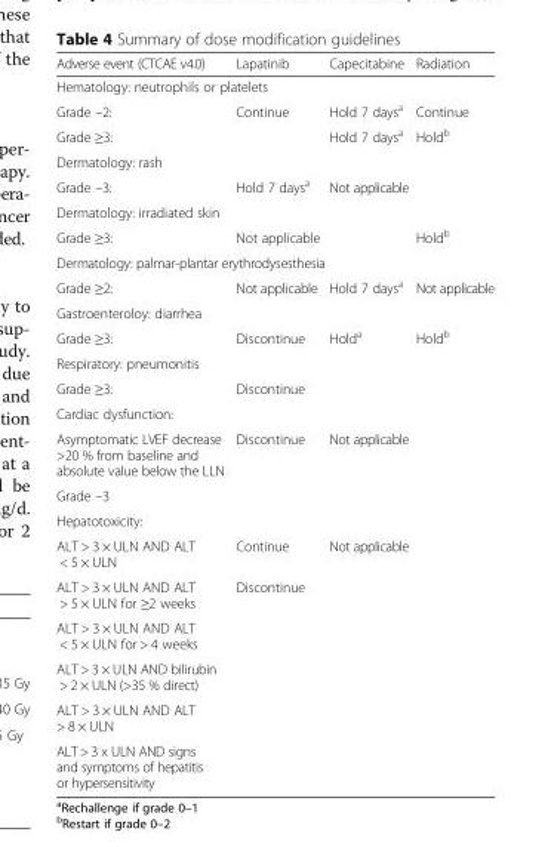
<table><thead><tr><td>Adverse event (CTCAE v4.0)</td><td>Lapatinib</td><td>Capecitabine</td><td>Radiation</td></tr></thead><tbody><tr><td colspan="4">Hematology: neutrophils or platelets</td></tr><tr><td>Grade –2:</td><td rowspan="2">Continue</td><td>Hold 7 days<sup>a</sup></td><td>Continue</td></tr><tr><td>Grade ≥3:</td><td>Hold 7 days<sup>a</sup></td><td>Hold<sup>b</sup></td></tr><tr><td colspan="4">Dermatology: rash</td></tr><tr><td>Grade –3:</td><td>Hold 7 days<sup>a</sup></td><td colspan="2">Not applicable</td></tr><tr><td colspan="4">Dermatology: irradiated skin</td></tr><tr><td>Grade ≥3:</td><td colspan="2">Not applicable</td><td>Hold<sup>b</sup></td></tr><tr><td colspan="4">Dermatology: palmar-plantar erythrodysesthesia</td></tr><tr><td>Grade ≥2:</td><td>Not applicable</td><td>Hold 7 days<sup>a</sup></td><td>Not applicable</td></tr><tr><td colspan="4">Gastroenteroloy: diarrhea</td></tr><tr><td>Grade ≥3:</td><td>Discontinue</td><td>Hold<sup>a</sup></td><td>Hold<sup>b</sup></td></tr><tr><td colspan="4">Respiratory: pneumonitis</td></tr><tr><td>Grade ≥3:</td><td>Discontinue</td><td colspan="2"></td></tr><tr><td colspan="4">Cardiac dysfunction:</td></tr><tr><td>Asymptomatic LVEF decrease &gt;20 % from baseline and absolute value below the LLN</td><td rowspan="2">Discontinue</td><td rowspan="2" colspan="2">Not applicable</td></tr><tr><td>Grade –3</td></tr><tr><td colspan="4">Hepatotoxicity:</td></tr><tr><td>ALT &gt; 3 × ULN AND ALT &lt; 5 × ULN</td><td>Continue</td><td rowspan="6" colspan="2">Not applicable</td></tr><tr><td>ALT &gt; 3 × ULN AND ALT &gt; 5 × ULN for ≥2 weeks</td><td rowspan="5">Discontinue</td></tr><tr><td>ALT &gt; 3 × ULN AND ALT &lt; 5 × ULN for &gt; 4 weeks</td></tr><tr><td>ALT &gt; 3 × ULN AND bilirubin &gt; 2 × ULN (&gt;35 % direct)</td></tr><tr><td>ALT &gt; 3 × ULN AND ALT &gt; 8 × ULN</td></tr><tr><td>ALT &gt; 3 x ULN AND signs and symptoms of hepatitis or hypersensitivity</td></tr></tbody></table>